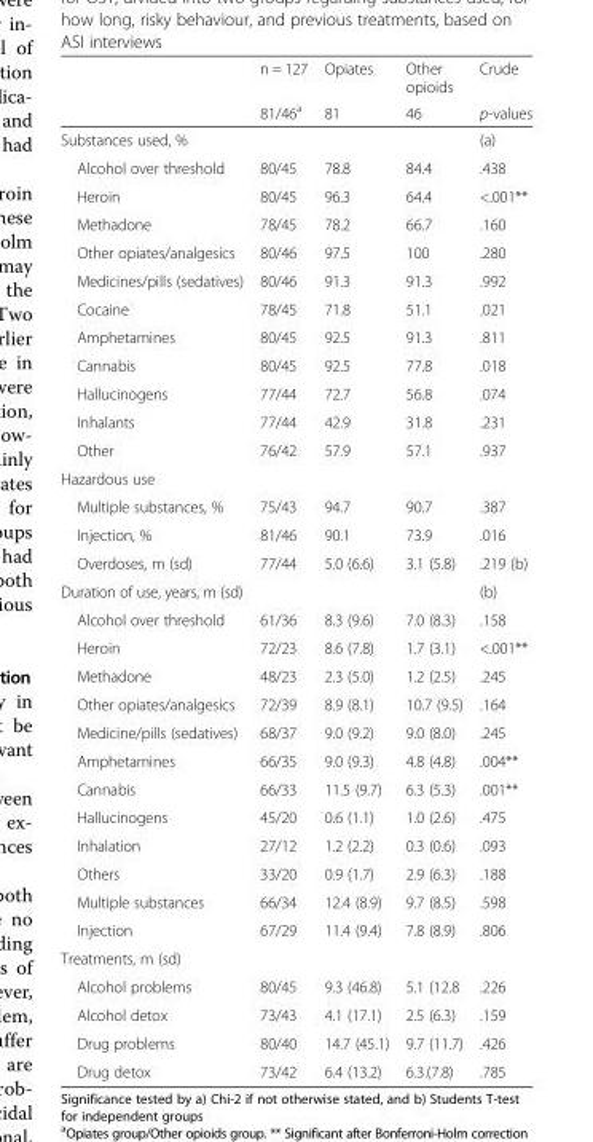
<table><thead><tr><td rowspan="2"></td><td rowspan="2">n = 127 81/46<sup>a</sup></td><td rowspan="2">Opiates 81</td><td rowspan="2">Other opioids 46</td><td rowspan="2">Crude p-values</td></tr><tr></tr></thead><tbody><tr><td>Substances used, %</td><td></td><td></td><td></td><td>(a)</td></tr><tr><td>Alcohol over threshold</td><td>80/45</td><td>78.8</td><td>84.4</td><td>.438</td></tr><tr><td>Heroin</td><td>80/45</td><td>96.3</td><td>64.4</td><td>&lt;.001**</td></tr><tr><td>Methadone</td><td>78/45</td><td>78.2</td><td>66.7</td><td>.160</td></tr><tr><td>Other opiates/analgesics</td><td>80/46</td><td>97.5</td><td>100</td><td>.280</td></tr><tr><td>Medicines/pills (sedatives)</td><td>80/46</td><td>91.3</td><td>91.3</td><td>.992</td></tr><tr><td>Cocaine</td><td>78/45</td><td>71.8</td><td>51.1</td><td>.021</td></tr><tr><td>Amphetamines</td><td>80/45</td><td>92.5</td><td>91.3</td><td>.811</td></tr><tr><td>Cannabis</td><td>80/45</td><td>92.5</td><td>77.8</td><td>.018</td></tr><tr><td>Hallucinogens</td><td>77/44</td><td>72.7</td><td>56.8</td><td>.074</td></tr><tr><td>Inhalants</td><td>77/44</td><td>42.9</td><td>31.8</td><td>.231</td></tr><tr><td>Other</td><td>76/42</td><td>57.9</td><td>57.1</td><td>.937</td></tr><tr><td colspan="5">Hazardous use</td></tr><tr><td>Multiple substances, %</td><td>75/43</td><td>94.7</td><td>90.7</td><td>.387</td></tr><tr><td>Injection, %</td><td>81/46</td><td>90.1</td><td>73.9</td><td>.016</td></tr><tr><td>Overdoses, m (sd)</td><td>77/44</td><td>5.0 (6.6)</td><td>3.1 (5.8)</td><td>.219 (b)</td></tr><tr><td>Duration of use, years, m (sd)</td><td></td><td></td><td></td><td>(b)</td></tr><tr><td>Alcohol over threshold</td><td>61/36</td><td>8.3 (9.6)</td><td>7.0 (8.3)</td><td>.158</td></tr><tr><td>Heroin</td><td>72/23</td><td>8.6 (7.8)</td><td>1.7 (3.1)</td><td>&lt;.001**</td></tr><tr><td>Methadone</td><td>48/23</td><td>2.3 (5.0)</td><td>1.2 (2.5)</td><td>.245</td></tr><tr><td>Other opiates/analgesics</td><td>72/39</td><td>8.9 (8.1)</td><td>10.7 (9.5)</td><td>.164</td></tr><tr><td>Medicine/pills (sedatives)</td><td>68/37</td><td>9.0 (9.2)</td><td>9.0 (8.0)</td><td>.245</td></tr><tr><td>Amphetamines</td><td>66/35</td><td>9.0 (9.3)</td><td>4.8 (4.8)</td><td>.004**</td></tr><tr><td>Cannabis</td><td>66/33</td><td>11.5 (9.7)</td><td>6.3 (5.3)</td><td>.001**</td></tr><tr><td>Hallucinogens</td><td>45/20</td><td>0.6 (1.1)</td><td>1.0 (2.6)</td><td>.475</td></tr><tr><td>Inhalation</td><td>27/12</td><td>1.2 (2.2)</td><td>0.3 (0.6)</td><td>.093</td></tr><tr><td>Others</td><td>33/20</td><td>0.9 (1.7)</td><td>2.9 (6.3)</td><td>.188</td></tr><tr><td>Multiple substances</td><td>66/34</td><td>12.4 (8.9)</td><td>9.7 (8.5)</td><td>.598</td></tr><tr><td>Injection</td><td>67/29</td><td>11.4 (9.4)</td><td>7.8 (8.9)</td><td>.806</td></tr><tr><td colspan="5">Treatments, m (sd)</td></tr><tr><td>Alcohol problems</td><td>80/45</td><td>9.3 (46.8)</td><td>5.1 (12.8</td><td>.226</td></tr><tr><td>Alcohol detox</td><td>73/43</td><td>4.1 (17.1)</td><td>2.5 (6.3)</td><td>.159</td></tr><tr><td>Drug problems</td><td>80/40</td><td>14.7 (45.1)</td><td>9.7 (11.7)</td><td>.426</td></tr><tr><td>Drug detox</td><td>73/42</td><td>6.4 (13.2)</td><td>6.3.(7.8)</td><td>.785</td></tr></tbody></table>